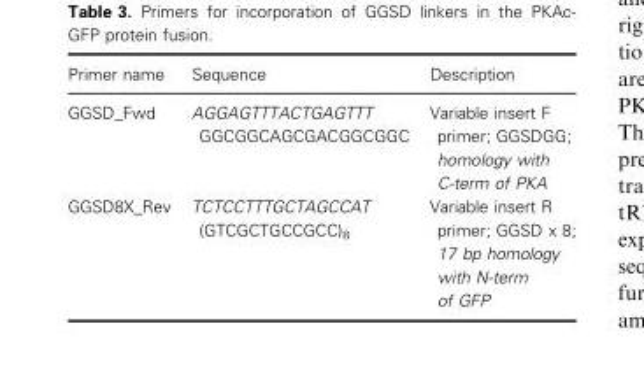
<table><thead><tr><td>Primer name</td><td>Sequence</td><td>Description</td></tr></thead><tbody><tr><td>GGSD_Fwd</td><td>AGGAGTTTACTGAGTTT GGCGGCAGCGACGGCGGC</td><td>Variable insert F primer; GGSDGG; homology with C-term of PKA</td></tr><tr><td>GGSD8X_Rev</td><td>TCTCCTTTGCTAGCCAT (GTCGCTGCCGCC)<sub>8</sub></td><td>Variable insert R primer; GGSD x 8; 17 bp homology with N-term of GFP</td></tr></tbody></table>